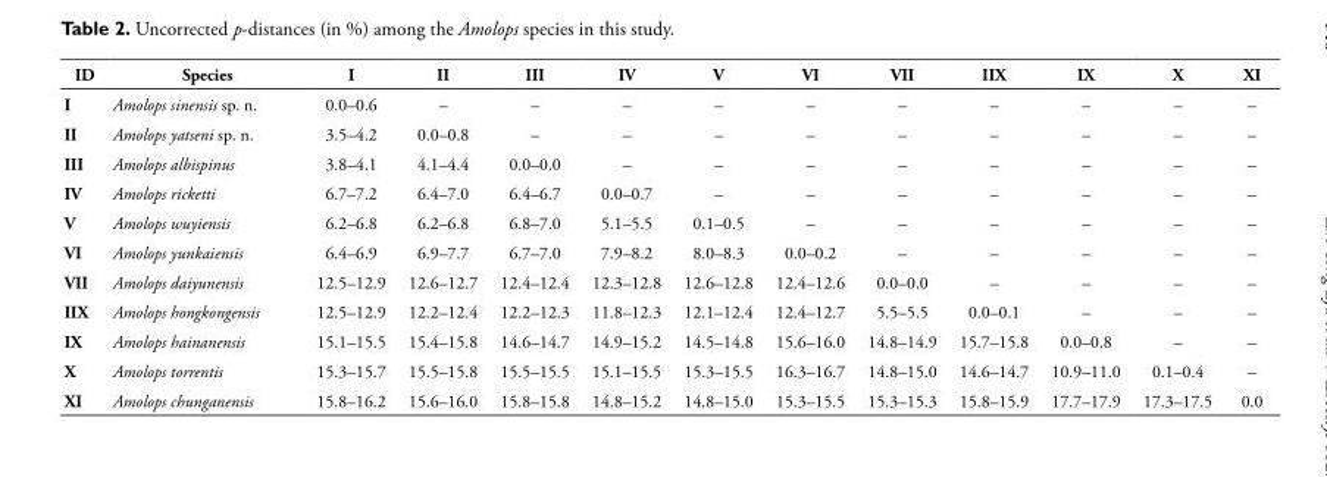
<table><thead><tr><td>ID</td><td>Species</td><td>I</td><td>II</td><td>III</td><td>IV</td><td>V</td><td>VI</td><td>VII</td><td>IIX</td><td>IX</td><td>X</td><td>XI</td></tr></thead><tbody><tr><td>I</td><td>Amolops sinensis sp. n.</td><td>0.0–0.6</td><td>–</td><td>–</td><td>–</td><td>–</td><td>–</td><td>–</td><td>–</td><td>–</td><td>–</td><td>–</td></tr><tr><td>II</td><td>Amolops yatseni sp. n.</td><td>3.5–4.2</td><td>0.0–0.8</td><td>–</td><td>–</td><td>–</td><td>–</td><td>–</td><td>–</td><td>–</td><td>–</td><td>–</td></tr><tr><td>III</td><td>Amolops albispinus</td><td>3.8–4.1</td><td>4.1–4.4</td><td>0.0–0.0</td><td>–</td><td>–</td><td>–</td><td>–</td><td>–</td><td>–</td><td>–</td><td>–</td></tr><tr><td>IV</td><td>Amolops ricketti</td><td>6.7–7.2</td><td>6.4–7.0</td><td>6.4–6.7</td><td>0.0–0.7</td><td>–</td><td>–</td><td>–</td><td>–</td><td>–</td><td>–</td><td>–</td></tr><tr><td>V</td><td>Amolops wuyiensis</td><td>6.2–6.8</td><td>6.2–6.8</td><td>6.8–7.0</td><td>5.1–5.5</td><td>0.1–0.5</td><td>–</td><td>–</td><td>–</td><td>–</td><td>–</td><td>–</td></tr><tr><td>VI</td><td>Amolops yunkaiensis</td><td>6.4–6.9</td><td>6.9–7.7</td><td>6.7–7.0</td><td>7.9–8.2</td><td>8.0–8.3</td><td>0.0–0.2</td><td>–</td><td>–</td><td>–</td><td>–</td><td>–</td></tr><tr><td>VII</td><td>Amolops daiyunensis</td><td>12.5–12.9</td><td>12.6–12.7</td><td>12.4–12.4</td><td>12.3–12.8</td><td>12.6–12.8</td><td>12.4–12.6</td><td>0.0–0.0</td><td>–</td><td>–</td><td>–</td><td>–</td></tr><tr><td>IIX</td><td>Amolops hongkongensis</td><td>12.5–12.9</td><td>12.2–12.4</td><td>12.2–12.3</td><td>11.8–12.3</td><td>12.1–12.4</td><td>12.4–12.7</td><td>5.5–5.5</td><td>0.0–0.1</td><td>–</td><td>–</td><td>–</td></tr><tr><td>IX</td><td>Amolops hainanensis</td><td>15.1–15.5</td><td>15.4–15.8</td><td>14.6–14.7</td><td>14.9–15.2</td><td>14.5–14.8</td><td>15.6–16.0</td><td>14.8–14.9</td><td>15.7–15.8</td><td>0.0–0.8</td><td>–</td><td>–</td></tr><tr><td>X</td><td>Amolops torrentis</td><td>15.3–15.7</td><td>15.5–15.8</td><td>15.5–15.5</td><td>15.1–15.5</td><td>15.3–15.5</td><td>16.3–16.7</td><td>14.8–15.0</td><td>14.6–14.7</td><td>10.9–11.0</td><td>0.1–0.4</td><td>–</td></tr><tr><td>XI</td><td>Amolops chunganensis</td><td>15.8–16.2</td><td>15.6–16.0</td><td>15.8–15.8</td><td>14.8–15.2</td><td>14.8–15.0</td><td>15.3–15.5</td><td>15.3–15.3</td><td>15.8–15.9</td><td>17.7–17.9</td><td>17.3–17.5</td><td>0.0</td></tr></tbody></table>